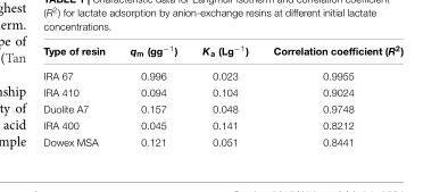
<table><thead><tr><td>Type of resin</td><td>q<sub>m</sub> (gg<sup>−1</sup>)</td><td>K<sub>a</sub> (Lg<sup>−1</sup>)</td><td>Correlation coefficient (R<sup>2</sup>)</td></tr></thead><tbody><tr><td>IRA 67</td><td>0.996</td><td>0.023</td><td>0.9955</td></tr><tr><td>IRA 410</td><td>0.094</td><td>0.104</td><td>0.9024</td></tr><tr><td>Duolite A7</td><td>0.157</td><td>0.048</td><td>0.9748</td></tr><tr><td>IRA 400</td><td>0.045</td><td>0.141</td><td>0.8212</td></tr><tr><td>Dowex MSA</td><td>0.121</td><td>0.051</td><td>0.8441</td></tr></tbody></table>